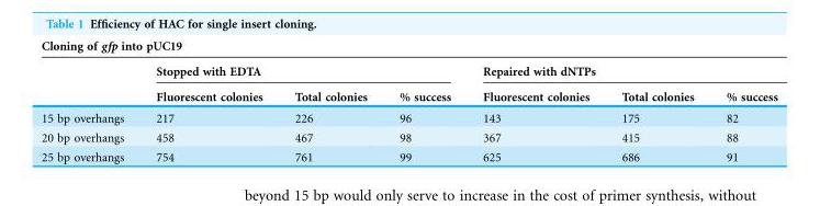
<table><thead><tr><td colspan="7">Cloning of gfp into pUC19</td></tr><tr><td rowspan="2"></td><td colspan="3">Stopped with EDTA</td><td colspan="3">Repaired with dNTPs</td></tr><tr><td>Fluorescent colonies</td><td>Total colonies</td><td>% success</td><td>Fluorescent colonies</td><td>Total colonies</td><td>% success</td></tr></thead><tbody><tr><td>15 bp overhangs</td><td>217</td><td>226</td><td>96</td><td>143</td><td>175</td><td>82</td></tr><tr><td>20 bp overhangs</td><td>458</td><td>467</td><td>98</td><td>367</td><td>415</td><td>88</td></tr><tr><td>25 bp overhangs</td><td>754</td><td>761</td><td>99</td><td>625</td><td>686</td><td>91</td></tr></tbody></table>